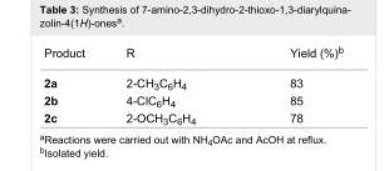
<table><tbody><tr><td>Product</td><td>R</td><td>Yield (%)<sup>b</sup></td></tr><tr><td>2a</td><td>2-CH<sub>3</sub>C<sub>6</sub>H<sub>4</sub></td><td>83</td></tr><tr><td>2b</td><td>4-ClC<sub>6</sub>H<sub>4</sub></td><td>85</td></tr><tr><td>2c</td><td>2-OCH<sub>3</sub>C<sub>6</sub>H<sub>4</sub></td><td>78</td></tr></tbody></table>